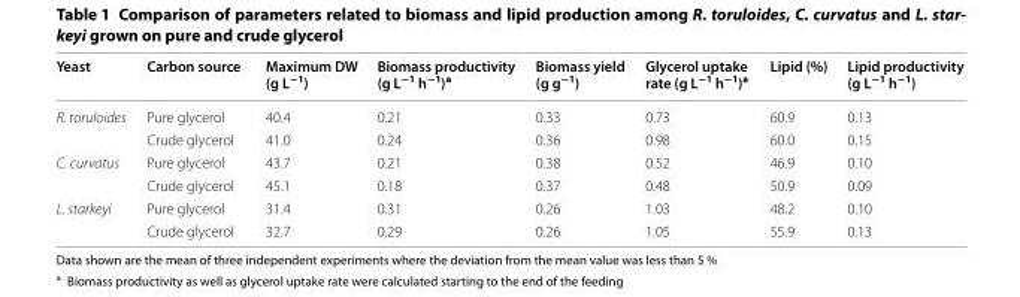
<table><thead><tr><td>Yeast</td><td>Carbon source</td><td>Maximum DW (g L<sup>−1</sup>)</td><td>Biomass productivity (g L<sup>−1</sup> h<sup>−1</sup>)<sup>a</sup></td><td>Biomass yield (g g<sup>−1</sup>)</td><td>Glycerol uptake rate (g L<sup>−1</sup> h<sup>−1</sup>)<sup>a</sup></td><td>Lipid (%)</td><td>Lipid productivity (g L<sup>−1</sup> h<sup>−1</sup>)</td></tr></thead><tbody><tr><td rowspan="2">R. toruloides</td><td>Pure glycerol</td><td>40.4</td><td>0.21</td><td>0.33</td><td>0.73</td><td>60.9</td><td>0.13</td></tr><tr><td>Crude glycerol</td><td>41.0</td><td>0.24</td><td>0.36</td><td>0.98</td><td>60.0</td><td>0.15</td></tr><tr><td rowspan="2">C. curvatus</td><td>Pure glycerol</td><td>43.7</td><td>0.21</td><td>0.38</td><td>0.52</td><td>46.9</td><td>0.10</td></tr><tr><td>Crude glycerol</td><td>45.1</td><td>0.18</td><td>0.37</td><td>0.48</td><td>50.9</td><td>0.09</td></tr><tr><td rowspan="2">L. starkeyi</td><td>Pure glycerol</td><td>31.4</td><td>0.31</td><td>0.26</td><td>1.03</td><td>48.2</td><td>0.10</td></tr><tr><td>Crude glycerol</td><td>32.7</td><td>0.29</td><td>0.26</td><td>1.05</td><td>55.9</td><td>0.13</td></tr></tbody></table>